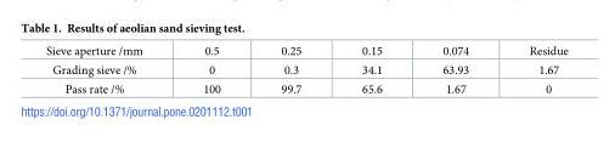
<table><tbody><tr><td>Sieve aperture /mm</td><td>0.5</td><td>0.25</td><td>0.15</td><td>0.074</td><td>Residue</td></tr><tr><td>Grading sieve /%</td><td>0</td><td>0.3</td><td>34.1</td><td>63.93</td><td>1.67</td></tr><tr><td>Pass rate /%</td><td>100</td><td>99.7</td><td>65.6</td><td>1.67</td><td>0</td></tr></tbody></table>